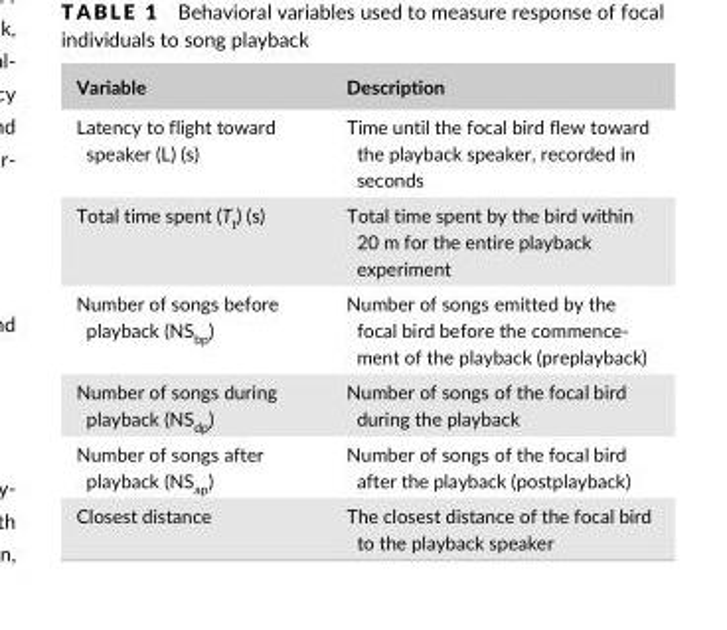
<table><thead><tr><td>Variable</td><td>Description</td></tr></thead><tbody><tr><td>Latency to flight toward speaker (L) (s)</td><td>Time until the focal bird flew toward the playback speaker, recorded in seconds</td></tr><tr><td>Total time spent (T<sub>t</sub>) (s)</td><td>Total time spent by the bird within 20 m for the entire playback experiment</td></tr><tr><td>Number of songs before playback (NS<sub>bp</sub>)</td><td>Number of songs emitted by the focal bird before the commence- ment of the playback (preplayback)</td></tr><tr><td>Number of songs during playback (NS<sub>dp</sub>)</td><td>Number of songs of the focal bird during the playback</td></tr><tr><td>Number of songs after playback (NS<sub>ap</sub>)</td><td>Number of songs of the focal bird after the playback (postplayback)</td></tr><tr><td>Closest distance</td><td>The closest distance of the focal bird to the playback speaker</td></tr></tbody></table>